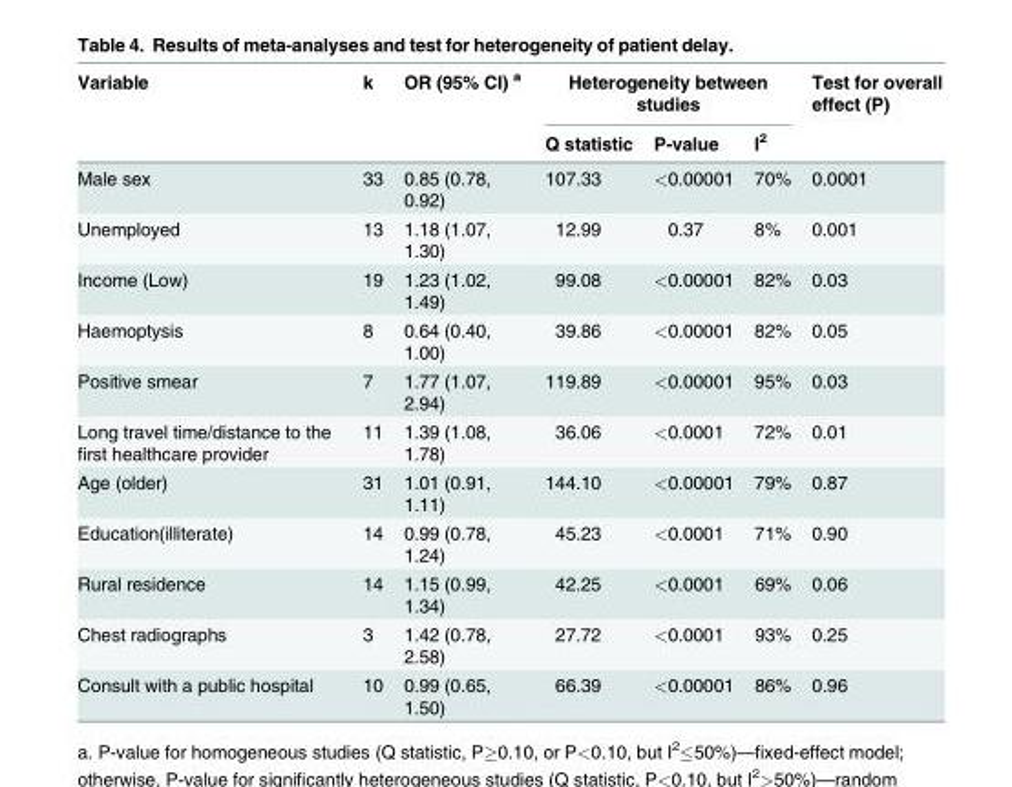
<table><thead><tr><td rowspan="2">Variable</td><td rowspan="2">k</td><td rowspan="2">OR (95% CI) <sup>a</sup></td><td colspan="3">Heterogeneity between studies</td><td rowspan="2">Test for overall effect (P)</td></tr><tr><td>Q statistic</td><td>P-value</td><td>I<sup>2</sup></td></tr></thead><tbody><tr><td>Male sex</td><td>33</td><td>0.85 (0.78, 0.92)</td><td>107.33</td><td>&lt;0.00001</td><td>70%</td><td>0.0001</td></tr><tr><td>Unemployed</td><td>13</td><td>1.18 (1.07, 1.30)</td><td>12.99</td><td>0.37</td><td>8%</td><td>0.001</td></tr><tr><td>Income (Low)</td><td>19</td><td>1.23 (1.02, 1.49)</td><td>99.08</td><td>&lt;0.00001</td><td>82%</td><td>0.03</td></tr><tr><td>Haemoptysis</td><td>8</td><td>0.64 (0.40, 1.00)</td><td>39.86</td><td>&lt;0.00001</td><td>82%</td><td>0.05</td></tr><tr><td>Positive smear</td><td>7</td><td>1.77 (1.07, 2.94)</td><td>119.89</td><td>&lt;0.00001</td><td>95%</td><td>0.03</td></tr><tr><td>Long travel time/distance to the first healthcare provider</td><td>11</td><td>1.39 (1.08, 1.78)</td><td>36.06</td><td>&lt;0.0001</td><td>72%</td><td>0.01</td></tr><tr><td>Age (older)</td><td>31</td><td>1.01 (0.91, 1.11)</td><td>144.10</td><td>&lt;0.00001</td><td>79%</td><td>0.87</td></tr><tr><td>Education(illiterate)</td><td>14</td><td>0.99 (0.78, 1.24)</td><td>45.23</td><td>&lt;0.0001</td><td>71%</td><td>0.90</td></tr><tr><td>Rural residence</td><td>14</td><td>1.15 (0.99, 1.34)</td><td>42.25</td><td>&lt;0.0001</td><td>69%</td><td>0.06</td></tr><tr><td>Chest radiographs</td><td>3</td><td>1.42 (0.78, 2.58)</td><td>27.72</td><td>&lt;0.0001</td><td>93%</td><td>0.25</td></tr><tr><td>Consult with a public hospital</td><td>10</td><td>0.99 (0.65, 1.50)</td><td>66.39</td><td>&lt;0.00001</td><td>86%</td><td>0.96</td></tr></tbody></table>